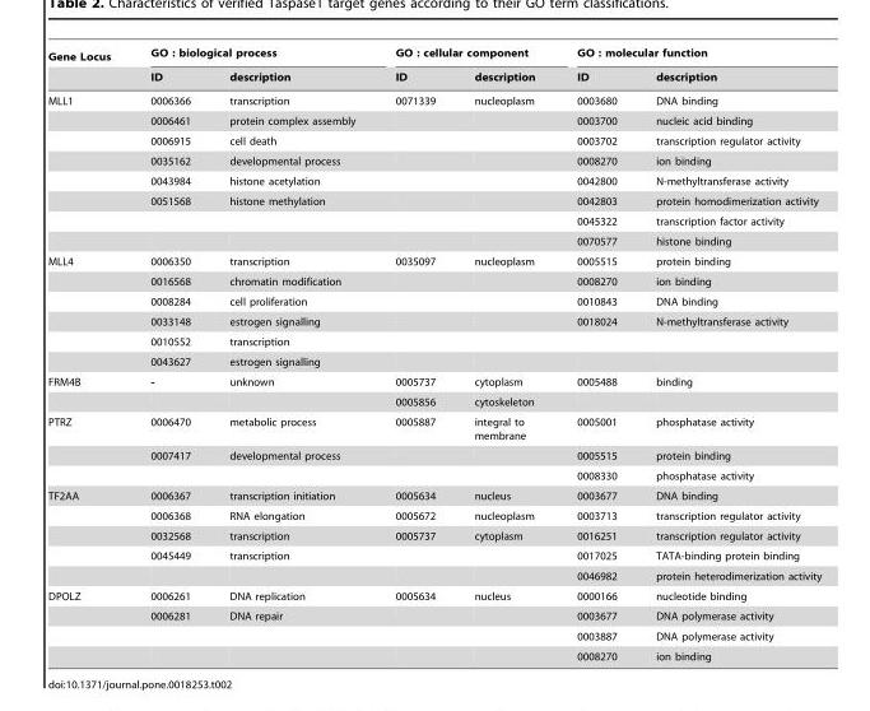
<table><thead><tr><td rowspan="2">Gene Locus</td><td colspan="2">GO : biological process</td><td colspan="2">GO : cellular component</td><td colspan="2">GO : molecular function</td></tr><tr><td>ID</td><td>description</td><td>ID</td><td>description</td><td>ID</td><td>description</td></tr></thead><tbody><tr><td rowspan="8">MLL1</td><td>0006366</td><td>transcription</td><td>0071339</td><td>nucleoplasm</td><td>0003680</td><td>DNA binding</td></tr><tr><td>0006461</td><td>protein complex assembly</td><td></td><td></td><td>0003700</td><td>nucleic acid binding</td></tr><tr><td>0006915</td><td>cell death</td><td></td><td></td><td>0003702</td><td>transcription regulator activity</td></tr><tr><td>0035162</td><td>developmental process</td><td></td><td></td><td>0008270</td><td>ion binding</td></tr><tr><td>0043984</td><td>histone acetylation</td><td></td><td></td><td>0042800</td><td>N-methyltransferase activity</td></tr><tr><td>0051568</td><td>histone methylation</td><td></td><td></td><td>0042803</td><td>protein homodimerization activity</td></tr><tr><td></td><td></td><td></td><td></td><td>0045322</td><td>transcription factor activity</td></tr><tr><td></td><td></td><td></td><td></td><td>0070577</td><td>histone binding</td></tr><tr><td rowspan="6">MLL4</td><td>0006350</td><td>transcription</td><td>0035097</td><td>nucleoplasm</td><td>0005515</td><td>protein binding</td></tr><tr><td>0016568</td><td>chromatin modification</td><td></td><td></td><td>0008270</td><td>ion binding</td></tr><tr><td>0008284</td><td>cell proliferation</td><td></td><td></td><td>0010843</td><td>DNA binding</td></tr><tr><td>0033148</td><td>estrogen signalling</td><td></td><td></td><td>0018024</td><td>N-methyltransferase activity</td></tr><tr><td>0010552</td><td>transcription</td><td></td><td></td><td></td><td></td></tr><tr><td>0043627</td><td>estrogen signalling</td><td></td><td></td><td></td><td></td></tr><tr><td rowspan="2">FRM4B</td><td>-</td><td>unknown</td><td>0005737</td><td>cytoplasm</td><td>0005488</td><td>binding</td></tr><tr><td></td><td></td><td>0005856</td><td>cytoskeleton</td><td></td><td></td></tr><tr><td rowspan="3">PTRZ</td><td>0006470</td><td>metabolic process</td><td>0005887</td><td>integral to membrane</td><td>0005001</td><td>phosphatase activity</td></tr><tr><td>0007417</td><td>developmental process</td><td></td><td></td><td>0005515</td><td>protein binding</td></tr><tr><td></td><td></td><td></td><td></td><td>0008330</td><td>phosphatase activity</td></tr><tr><td rowspan="5">TF2AA</td><td>0006367</td><td>transcription initiation</td><td>0005634</td><td>nucleus</td><td>0003677</td><td>DNA binding</td></tr><tr><td>0006368</td><td>RNA elongation</td><td>0005672</td><td>nucleoplasm</td><td>0003713</td><td>transcription regulator activity</td></tr><tr><td>0032568</td><td>transcription</td><td>0005737</td><td>cytoplasm</td><td>0016251</td><td>transcription regulator activity</td></tr><tr><td>0045449</td><td>transcription</td><td></td><td></td><td>0017025</td><td>TATA-binding protein binding</td></tr><tr><td></td><td></td><td></td><td></td><td>0046982</td><td>protein heterodimerization activity</td></tr><tr><td rowspan="4">DPOLZ</td><td>0006261</td><td>DNA replication</td><td>0005634</td><td>nucleus</td><td>0000166</td><td>nucleotide binding</td></tr><tr><td>0006281</td><td>DNA repair</td><td></td><td></td><td>0003677</td><td>DNA polymerase activity</td></tr><tr><td></td><td></td><td></td><td></td><td>0003887</td><td>DNA polymerase activity</td></tr><tr><td></td><td></td><td></td><td></td><td>0008270</td><td>ion binding</td></tr></tbody></table>